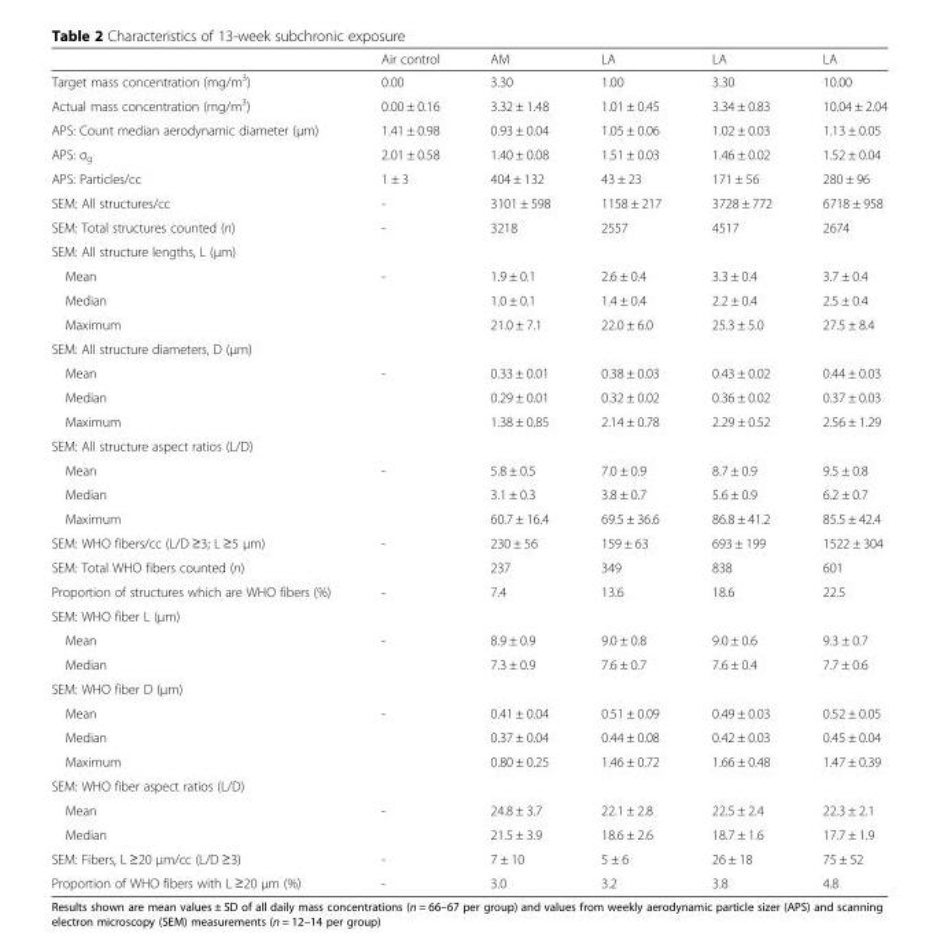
<table><thead><tr><td></td><td>Air control</td><td>AM</td><td>LA</td><td>LA</td><td>LA</td></tr></thead><tbody><tr><td>Target mass concentration (mg/m<sup>3</sup>)</td><td>0.00</td><td>3.30</td><td>1.00</td><td>3.30</td><td>10.00</td></tr><tr><td>Actual mass concentration (mg/m<sup>3</sup>)</td><td>0.00 ± 0.16</td><td>3.32 ± 1.48</td><td>1.01 ± 0.45</td><td>3.34 ± 0.83</td><td>10.04 ± 2.04</td></tr><tr><td>APS: Count median aerodynamic diameter (μm)</td><td>1.41 ± 0.98</td><td>0.93 ± 0.04</td><td>1.05 ± 0.06</td><td>1.02 ± 0.03</td><td>1.13 ± 0.05</td></tr><tr><td>APS: σ<sub>g</sub></td><td>2.01 ± 0.58</td><td>1.40 ± 0.08</td><td>1.51 ± 0.03</td><td>1.46 ± 0.02</td><td>1.52 ± 0.04</td></tr><tr><td>APS: Particles/cc</td><td>1 ± 3</td><td>404 ± 132</td><td>43 ± 23</td><td>171 ± 56</td><td>280 ± 96</td></tr><tr><td>SEM: All structures/cc</td><td>-</td><td>3101 ± 598</td><td>1158 ± 217</td><td>3728 ± 772</td><td>6718 ± 958</td></tr><tr><td>SEM: Total structures counted (n)</td><td>-</td><td>3218</td><td>2557</td><td>4517</td><td>2674</td></tr><tr><td colspan="6">SEM: All structure lengths, L (μm)</td></tr><tr><td>Mean</td><td rowspan="3">-</td><td>1.9 ± 0.1</td><td>2.6 ± 0.4</td><td>3.3 ± 0.4</td><td>3.7 ± 0.4</td></tr><tr><td>Median</td><td>1.0 ± 0.1</td><td>1.4 ± 0.4</td><td>2.2 ± 0.4</td><td>2.5 ± 0.4</td></tr><tr><td>Maximum</td><td>21.0 ± 7.1</td><td>22.0 ± 6.0</td><td>25.3 ± 5.0</td><td>27.5 ± 8.4</td></tr><tr><td colspan="6">SEM: All structure diameters, D (μm)</td></tr><tr><td>Mean</td><td rowspan="3">-</td><td>0.33 ± 0.01</td><td>0.38 ± 0.03</td><td>0.43 ± 0.02</td><td>0.44 ± 0.03</td></tr><tr><td>Median</td><td>0.29 ± 0.01</td><td>0.32 ± 0.02</td><td>0.36 ± 0.02</td><td>0.37 ± 0.03</td></tr><tr><td>Maximum</td><td>1.38 ± 0.85</td><td>2.14 ± 0.78</td><td>2.29 ± 0.52</td><td>2.56 ± 1.29</td></tr><tr><td colspan="6">SEM: All structure aspect ratios (L/D)</td></tr><tr><td>Mean</td><td rowspan="3">-</td><td>5.8 ± 0.5</td><td>7.0 ± 0.9</td><td>8.7 ± 0.9</td><td>9.5 ± 0.8</td></tr><tr><td>Median</td><td>3.1 ± 0.3</td><td>3.8 ± 0.7</td><td>5.6 ± 0.9</td><td>6.2 ± 0.7</td></tr><tr><td>Maximum</td><td>60.7 ± 16.4</td><td>69.5 ± 36.6</td><td>86.8 ± 41.2</td><td>85.5 ± 42.4</td></tr><tr><td>SEM: WHO fibers/cc (L/D ≥3; L ≥5 μm)</td><td>-</td><td>230 ± 56</td><td>159 ± 63</td><td>693 ± 199</td><td>1522 ± 304</td></tr><tr><td>SEM: Total WHO fibers counted (n)</td><td></td><td>237</td><td>349</td><td>838</td><td>601</td></tr><tr><td>Proportion of structures which are WHO fibers (%)</td><td>-</td><td>7.4</td><td>13.6</td><td>18.6</td><td>22.5</td></tr><tr><td colspan="6">SEM: WHO fiber L (μm)</td></tr><tr><td>Mean</td><td rowspan="2">-</td><td>8.9 ± 0.9</td><td>9.0 ± 0.8</td><td>9.0 ± 0.6</td><td>9.3 ± 0.7</td></tr><tr><td>Median</td><td>7.3 ± 0.9</td><td>7.6 ± 0.7</td><td>7.6 ± 0.4</td><td>7.7 ± 0.6</td></tr><tr><td colspan="6">SEM: WHO fiber D (μm)</td></tr><tr><td>Mean</td><td rowspan="3">-</td><td>0.41 ± 0.04</td><td>0.51 ± 0.09</td><td>0.49 ± 0.03</td><td>0.52 ± 0.05</td></tr><tr><td>Median</td><td>0.37 ± 0.04</td><td>0.44 ± 0.08</td><td>0.42 ± 0.03</td><td>0.45 ± 0.04</td></tr><tr><td>Maximum</td><td>0.80 ± 0.25</td><td>1.46 ± 0.72</td><td>1.66 ± 0.48</td><td>1.47 ± 0.39</td></tr><tr><td colspan="6">SEM: WHO fiber aspect ratios (L/D)</td></tr><tr><td>Mean</td><td rowspan="2">-</td><td>24.8 ± 3.7</td><td>22.1 ± 2.8</td><td>22.5 ± 2.4</td><td>22.3 ± 2.1</td></tr><tr><td>Median</td><td>21.5 ± 3.9</td><td>18.6 ± 2.6</td><td>18.7 ± 1.6</td><td>17.7 ± 1.9</td></tr><tr><td>SEM: Fibers, L ≥20 μm/cc (L/D ≥3)</td><td>-</td><td>7 ± 10</td><td>5 ± 6</td><td>26 ± 18</td><td>75 ± 52</td></tr><tr><td>Proportion of WHO fibers with L ≥20 μm (%)</td><td>-</td><td>3.0</td><td>3.2</td><td>3.8</td><td>4.8</td></tr></tbody></table>